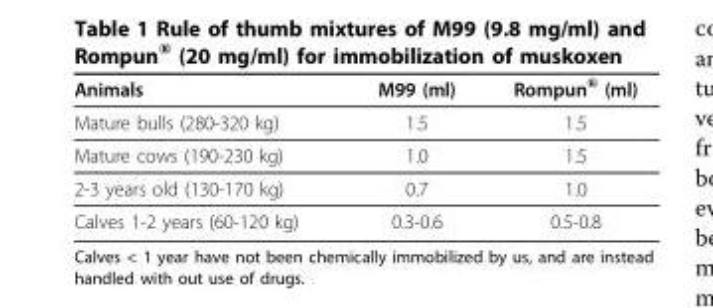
<table><thead><tr><td>Animals</td><td>M99 (ml)</td><td>Rompun<sup>®</sup> (ml)</td></tr></thead><tbody><tr><td>Mature bulls (280-320 kg)</td><td>1.5</td><td>1.5</td></tr><tr><td>Mature cows (190-230 kg)</td><td>1.0</td><td>1.5</td></tr><tr><td>2-3 years old (130-170 kg)</td><td>0.7</td><td>1.0</td></tr><tr><td>Calves 1-2 years (60-120 kg)</td><td>0.3-0.6</td><td>0.5-0.8</td></tr></tbody></table>